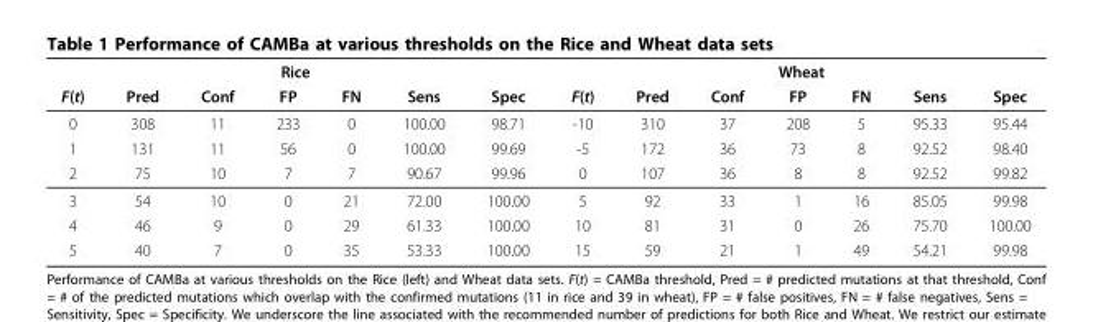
<table><thead><tr><td colspan="7">Rice</td><td colspan="7">Wheat</td></tr><tr><td>F(t)</td><td>Pred</td><td>Conf</td><td>FP</td><td>FN</td><td>Sens</td><td>Spec</td><td>F(t)</td><td>Pred</td><td>Conf</td><td>FP</td><td>FN</td><td>Sens</td><td>Spec</td></tr></thead><tbody><tr><td>0</td><td>308</td><td>11</td><td>233</td><td>0</td><td>100.00</td><td>98.71</td><td>-10</td><td>310</td><td>37</td><td>208</td><td>5</td><td>95.33</td><td>95.44</td></tr><tr><td>1</td><td>131</td><td>11</td><td>56</td><td>0</td><td>100.00</td><td>99.69</td><td>-5</td><td>172</td><td>36</td><td>73</td><td>8</td><td>92.52</td><td>98.40</td></tr><tr><td>2</td><td>75</td><td>10</td><td>7</td><td>7</td><td>90.67</td><td>99.96</td><td>0</td><td>107</td><td>36</td><td>8</td><td>8</td><td>92.52</td><td>99.82</td></tr><tr><td>3</td><td>54</td><td>10</td><td>0</td><td>21</td><td>72.00</td><td>100.00</td><td>5</td><td>92</td><td>33</td><td>1</td><td>16</td><td>85.05</td><td>99.98</td></tr><tr><td>4</td><td>46</td><td>9</td><td>0</td><td>29</td><td>61.33</td><td>100.00</td><td>10</td><td>81</td><td>31</td><td>0</td><td>26</td><td>75.70</td><td>100.00</td></tr><tr><td>5</td><td>40</td><td>7</td><td>0</td><td>35</td><td>53.33</td><td>100.00</td><td>15</td><td>59</td><td>21</td><td>1</td><td>49</td><td>54.21</td><td>99.98</td></tr></tbody></table>